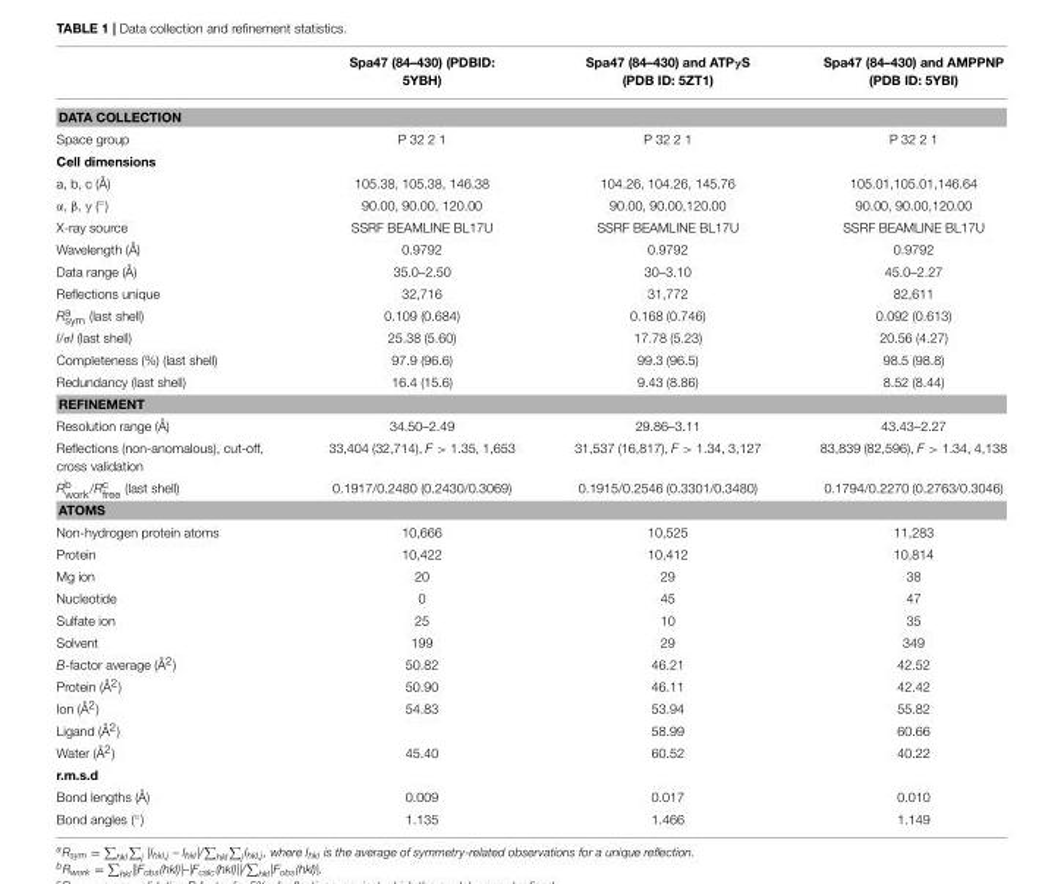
<table><thead><tr><td></td><td>Spa47 (84–430) (PDBID: 5YBH)</td><td>Spa47 (84–430) and ATPγS (PDB ID: 5ZT1)</td><td>Spa47 (84–430) and AMPPNP (PDB ID: 5YBI)</td></tr></thead><tbody><tr><td colspan="4">DATA COLLECTION</td></tr><tr><td>Space group</td><td>P 32 2 1</td><td>P 32 2 1</td><td>P 32 2 1</td></tr><tr><td colspan="4">Cell dimensions</td></tr><tr><td>a, b, c (Å)</td><td>105.38, 105.38, 146.38</td><td>104.26, 104.26, 145.76</td><td>105.01,105.01,146.64</td></tr><tr><td>α, β, γ (◦)</td><td>90.00, 90.00, 120.00</td><td>90.00, 90.00,120.00</td><td>90.00, 90.00,120.00</td></tr><tr><td>X-ray source</td><td>SSRF BEAMLINE BL17U</td><td>SSRF BEAMLINE BL17U</td><td>SSRF BEAMLINE BL17U</td></tr><tr><td>Wavelength (Å)</td><td>0.9792</td><td>0.9792</td><td>0.9792</td></tr><tr><td>Data range (Å)</td><td>35.0–2.50</td><td>30–3.10</td><td>45.0–2.27</td></tr><tr><td>Reflections unique</td><td>32,716</td><td>31,772</td><td>82,611</td></tr><tr><td>Rasym (last shell)</td><td>0.109 (0.684)</td><td>0.168 (0.746)</td><td>0.092 (0.613)</td></tr><tr><td>I/σI (last shell)</td><td>25.38 (5.60)</td><td>17.78 (5.23)</td><td>20.56 (4.27)</td></tr><tr><td>Completeness (%) (last shell)</td><td>97.9 (96.6)</td><td>99.3 (96.5)</td><td>98.5 (98.8)</td></tr><tr><td>Redundancy (last shell)</td><td>16.4 (15.6)</td><td>9.43 (8.86)</td><td>8.52 (8.44)</td></tr><tr><td colspan="4">REFINEMENT</td></tr><tr><td>Resolution range (Å)</td><td>34.50–2.49</td><td>29.86–3.11</td><td>43.43–2.27</td></tr><tr><td>Reflections (non-anomalous), cut-off, cross validation</td><td>33,404 (32,714), F &gt; 1.35, 1,653</td><td>31,537 (16,817), F &gt; 1.34, 3,127</td><td>83,839 (82,596), F &gt; 1.34, 4,138</td></tr><tr><td>Rb work/Rc free (last shell)</td><td>0.1917/0.2480 (0.2430/0.3069)</td><td>0.1915/0.2546 (0.3301/0.3480)</td><td>0.1794/0.2270 (0.2763/0.3046)</td></tr><tr><td colspan="4">ATOMS</td></tr><tr><td>Non-hydrogen protein atoms</td><td>10,666</td><td>10,525</td><td>11,283</td></tr><tr><td>Protein</td><td>10,422</td><td>10,412</td><td>10,814</td></tr><tr><td>Mg ion</td><td>20</td><td>29</td><td>38</td></tr><tr><td>Nucleotide</td><td>0</td><td>45</td><td>47</td></tr><tr><td>Sulfate ion</td><td>25</td><td>10</td><td>35</td></tr><tr><td>Solvent</td><td>199</td><td>29</td><td>349</td></tr><tr><td>B-factor average (Å<sup>2</sup>)</td><td>50.82</td><td>46.21</td><td>42.52</td></tr><tr><td>Protein (Å<sup>2</sup>)</td><td>50.90</td><td>46.11</td><td>42.42</td></tr><tr><td>Ion (Å<sup>2</sup>)</td><td>54.83</td><td>53.94</td><td>55.82</td></tr><tr><td>Ligand (Å<sup>2</sup>)</td><td></td><td>58.99</td><td>60.66</td></tr><tr><td>Water (Å<sup>2</sup>)</td><td>45.40</td><td>60.52</td><td>40.22</td></tr><tr><td colspan="4">r.m.s.d</td></tr><tr><td>Bond lengths (Å)</td><td>0.009</td><td>0.017</td><td>0.010</td></tr><tr><td>Bond angles (◦)</td><td>1.135</td><td>1.466</td><td>1.149</td></tr></tbody></table>